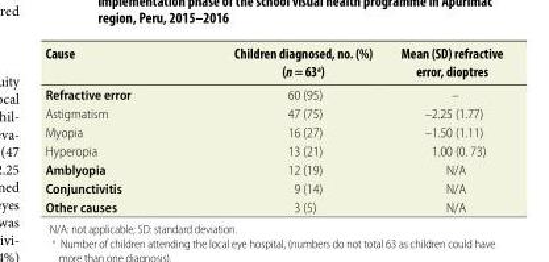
<table><thead><tr><td>Cause</td><td>Children diagnosed, no. (%) (n = 63<sup>a</sup>)</td><td>Mean (SD) refractive error, dioptres</td></tr></thead><tbody><tr><td>Refractive error</td><td>60 (95)</td><td>–</td></tr><tr><td>Astigmatism</td><td>47 (75)</td><td>–2.25 (1.77)</td></tr><tr><td>Myopia</td><td>16 (27)</td><td>–1.50 (1.11)</td></tr><tr><td>Hyperopia</td><td>13 (21)</td><td>1.00 (0. 73)</td></tr><tr><td>Amblyopia</td><td>12 (19)</td><td>N/A</td></tr><tr><td>Conjunctivitis</td><td>9 (14)</td><td>N/A</td></tr><tr><td>Other causes</td><td>3 (5)</td><td>N/A</td></tr></tbody></table>